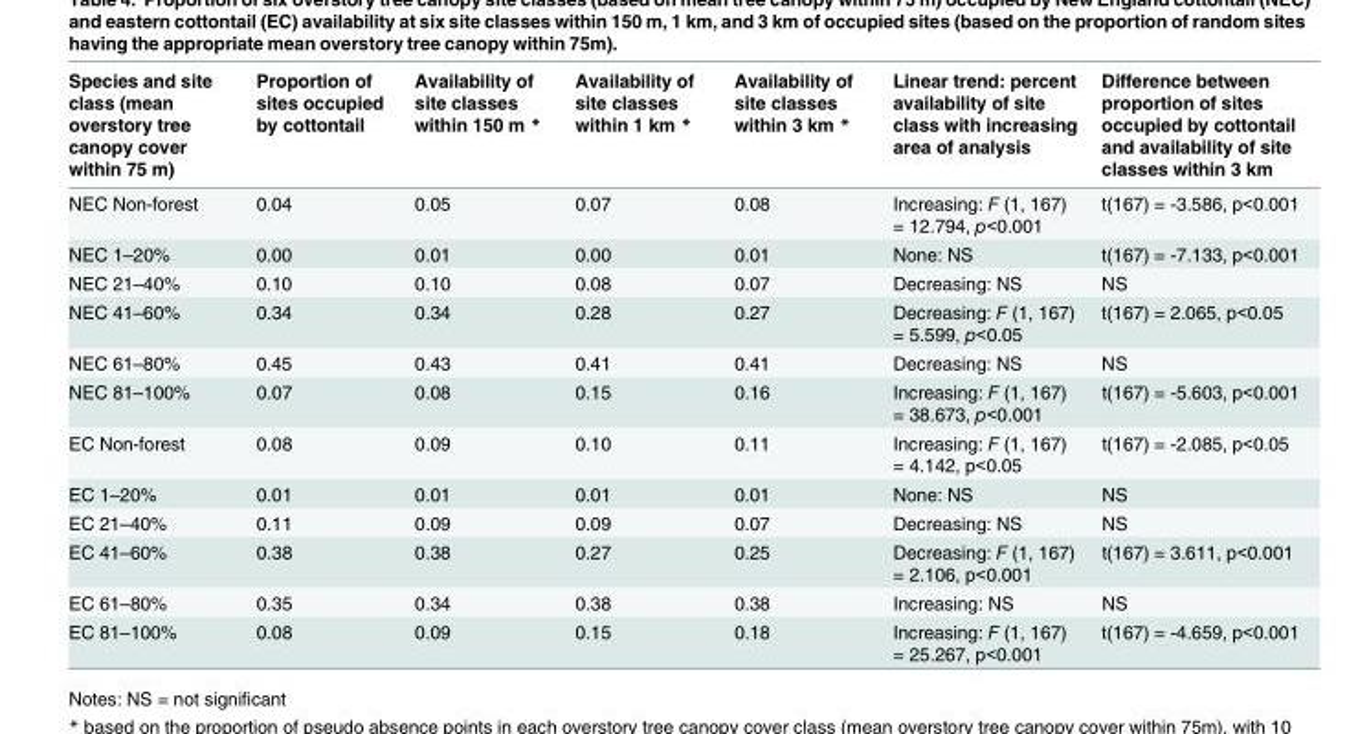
<table><thead><tr><td>Species and site class (mean overstory tree canopy cover within 75 m)</td><td>Proportion of sites occupied by cottontail</td><td>Availability of site classes within 150 m *</td><td>Availability of site classes within 1 km *</td><td>Availability of site classes within 3 km *</td><td>Linear trend: percent availability of site class with increasing area of analysis</td><td>Difference between proportion of sites occupied by cottontail and availability of site classes within 3 km</td></tr></thead><tbody><tr><td>NEC Non-forest</td><td>0.04</td><td>0.05</td><td>0.07</td><td>0.08</td><td>Increasing: F (1, 167) = 12.794, p&lt;0.001</td><td>t(167) = -3.586, p&lt;0.001</td></tr><tr><td>NEC 1–20%</td><td>0.00</td><td>0.01</td><td>0.00</td><td>0.01</td><td>None: NS</td><td>t(167) = -7.133, p&lt;0.001</td></tr><tr><td>NEC 21–40%</td><td>0.10</td><td>0.10</td><td>0.08</td><td>0.07</td><td>Decreasing: NS</td><td>NS</td></tr><tr><td>NEC 41–60%</td><td>0.34</td><td>0.34</td><td>0.28</td><td>0.27</td><td>Decreasing: F (1, 167) = 5.599, p&lt;0.05</td><td>t(167) = 2.065, p&lt;0.05</td></tr><tr><td>NEC 61–80%</td><td>0.45</td><td>0.43</td><td>0.41</td><td>0.41</td><td>Decreasing: NS</td><td>NS</td></tr><tr><td>NEC 81–100%</td><td>0.07</td><td>0.08</td><td>0.15</td><td>0.16</td><td>Increasing: F (1, 167) = 38.673, p&lt;0.001</td><td>t(167) = -5.603, p&lt;0.001</td></tr><tr><td>EC Non-forest</td><td>0.08</td><td>0.09</td><td>0.10</td><td>0.11</td><td>Increasing: F (1, 167) = 4.142, p&lt;0.05</td><td>t(167) = -2.085, p&lt;0.05</td></tr><tr><td>EC 1–20%</td><td>0.01</td><td>0.01</td><td>0.01</td><td>0.01</td><td>None: NS</td><td>NS</td></tr><tr><td>EC 21–40%</td><td>0.11</td><td>0.09</td><td>0.09</td><td>0.07</td><td>Decreasing: NS</td><td>NS</td></tr><tr><td>EC 41–60%</td><td>0.38</td><td>0.38</td><td>0.27</td><td>0.25</td><td>Decreasing: F (1, 167) = 2.106, p&lt;0.001</td><td>t(167) = 3.611, p&lt;0.001</td></tr><tr><td>EC 61–80%</td><td>0.35</td><td>0.34</td><td>0.38</td><td>0.38</td><td>Increasing: NS</td><td>NS</td></tr><tr><td>EC 81–100%</td><td>0.08</td><td>0.09</td><td>0.15</td><td>0.18</td><td>Increasing: F (1, 167) = 25.267, p&lt;0.001</td><td>t(167) = -4.659, p&lt;0.001</td></tr></tbody></table>